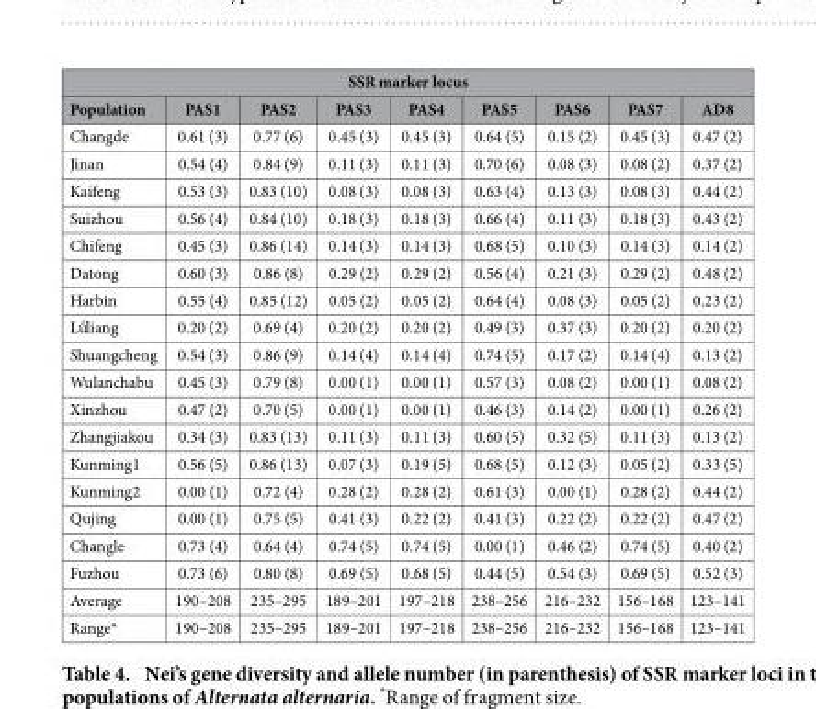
<table><thead><tr><td colspan="9">SSR marker locus</td></tr><tr><td>Population</td><td>PAS1</td><td>PAS2</td><td>PAS3</td><td>PAS4</td><td>PAS5</td><td>PAS6</td><td>PAS7</td><td>AD8</td></tr></thead><tbody><tr><td>Changde</td><td>0.61 (3)</td><td>0.77 (6)</td><td>0.45 (3)</td><td>0.45 (3)</td><td>0.64 (5)</td><td>0.15 (2)</td><td>0.45 (3)</td><td>0.47 (2)</td></tr><tr><td>Jinan</td><td>0.54 (4)</td><td>0.84 (9)</td><td>0.11 (3)</td><td>0.11 (3)</td><td>0.70 (6)</td><td>0.08 (3)</td><td>0.08 (2)</td><td>0.37 (2)</td></tr><tr><td>Kaifeng</td><td>0.53 (3)</td><td>0.83 (10)</td><td>0.08 (3)</td><td>0.08 (3)</td><td>0.63 (4)</td><td>0.13 (3)</td><td>0.08 (3)</td><td>0.44 (2)</td></tr><tr><td>Suizhou</td><td>0.56 (4)</td><td>0.84 (10)</td><td>0.18 (3)</td><td>0.18 (3)</td><td>0.66 (4)</td><td>0.11 (3)</td><td>0.18 (3)</td><td>0.43 (2)</td></tr><tr><td>Chifeng</td><td>0.45 (3)</td><td>0.86 (14)</td><td>0.14 (3)</td><td>0.14 (3)</td><td>0.68 (5)</td><td>0.10 (3)</td><td>0.14 (3)</td><td>0.14 (2)</td></tr><tr><td>Datong</td><td>0.60 (3)</td><td>0.86 (8)</td><td>0.29 (2)</td><td>0.29 (2)</td><td>0.56 (4)</td><td>0.21 (3)</td><td>0.29 (2)</td><td>0.48 (2)</td></tr><tr><td>Harbin</td><td>0.55 (4)</td><td>0.85 (12)</td><td>0.05 (2)</td><td>0.05 (2)</td><td>0.64 (4)</td><td>0.08 (3)</td><td>0.05 (2)</td><td>0.23 (2)</td></tr><tr><td>Lü´liang</td><td>0.20 (2)</td><td>0.69 (4)</td><td>0.20 (2)</td><td>0.20 (2)</td><td>0.49 (3)</td><td>0.37 (3)</td><td>0.20 (2)</td><td>0.20 (2)</td></tr><tr><td>Shuangcheng</td><td>0.54 (3)</td><td>0.86 (9)</td><td>0.14 (4)</td><td>0.14 (4)</td><td>0.74 (5)</td><td>0.17 (2)</td><td>0.14 (4)</td><td>0.13 (2)</td></tr><tr><td>Wulanchabu</td><td>0.45 (3)</td><td>0.79 (8)</td><td>0.00 (1)</td><td>0.00 (1)</td><td>0.57 (3)</td><td>0.08 (2)</td><td>0.00 (1)</td><td>0.08 (2)</td></tr><tr><td>Xinzhou</td><td>0.47 (2)</td><td>0.70 (5)</td><td>0.00 (1)</td><td>0.00 (1)</td><td>0.46 (3)</td><td>0.14 (2)</td><td>0.00 (1)</td><td>0.26 (2)</td></tr><tr><td>Zhangjiakou</td><td>0.34 (3)</td><td>0.83 (13)</td><td>0.11 (3)</td><td>0.11 (3)</td><td>0.60 (5)</td><td>0.32 (5)</td><td>0.11 (3)</td><td>0.13 (2)</td></tr><tr><td>Kunming1</td><td>0.56 (5)</td><td>0.86 (13)</td><td>0.07 (3)</td><td>0.19 (5)</td><td>0.68 (5)</td><td>0.12 (3)</td><td>0.05 (2)</td><td>0.33 (5)</td></tr><tr><td>Kunming2</td><td>0.00 (1)</td><td>0.72 (4)</td><td>0.28 (2)</td><td>0.28 (2)</td><td>0.61 (3)</td><td>0.00 (1)</td><td>0.28 (2)</td><td>0.44 (2)</td></tr><tr><td>Qujing</td><td>0.00 (1)</td><td>0.75 (5)</td><td>0.41 (3)</td><td>0.22 (2)</td><td>0.41 (3)</td><td>0.22 (2)</td><td>0.22 (2)</td><td>0.47 (2)</td></tr><tr><td>Changle</td><td>0.73 (4)</td><td>0.64 (4)</td><td>0.74 (5)</td><td>0.74 (5)</td><td>0.00 (1)</td><td>0.46 (2)</td><td>0.74 (5)</td><td>0.40 (2)</td></tr><tr><td>Fuzhou</td><td>0.73 (6)</td><td>0.80 (8)</td><td>0.69 (5)</td><td>0.68 (5)</td><td>0.44 (5)</td><td>0.54 (3)</td><td>0.69 (5)</td><td>0.52 (3)</td></tr><tr><td>Average</td><td>190–208</td><td>235–295</td><td>189–201</td><td>197–218</td><td>238–256</td><td>216–232</td><td>156–168</td><td>123–141</td></tr><tr><td>Range*</td><td>190–208</td><td>235–295</td><td>189–201</td><td>197–218</td><td>238–256</td><td>216–232</td><td>156–168</td><td>123–141</td></tr></tbody></table>